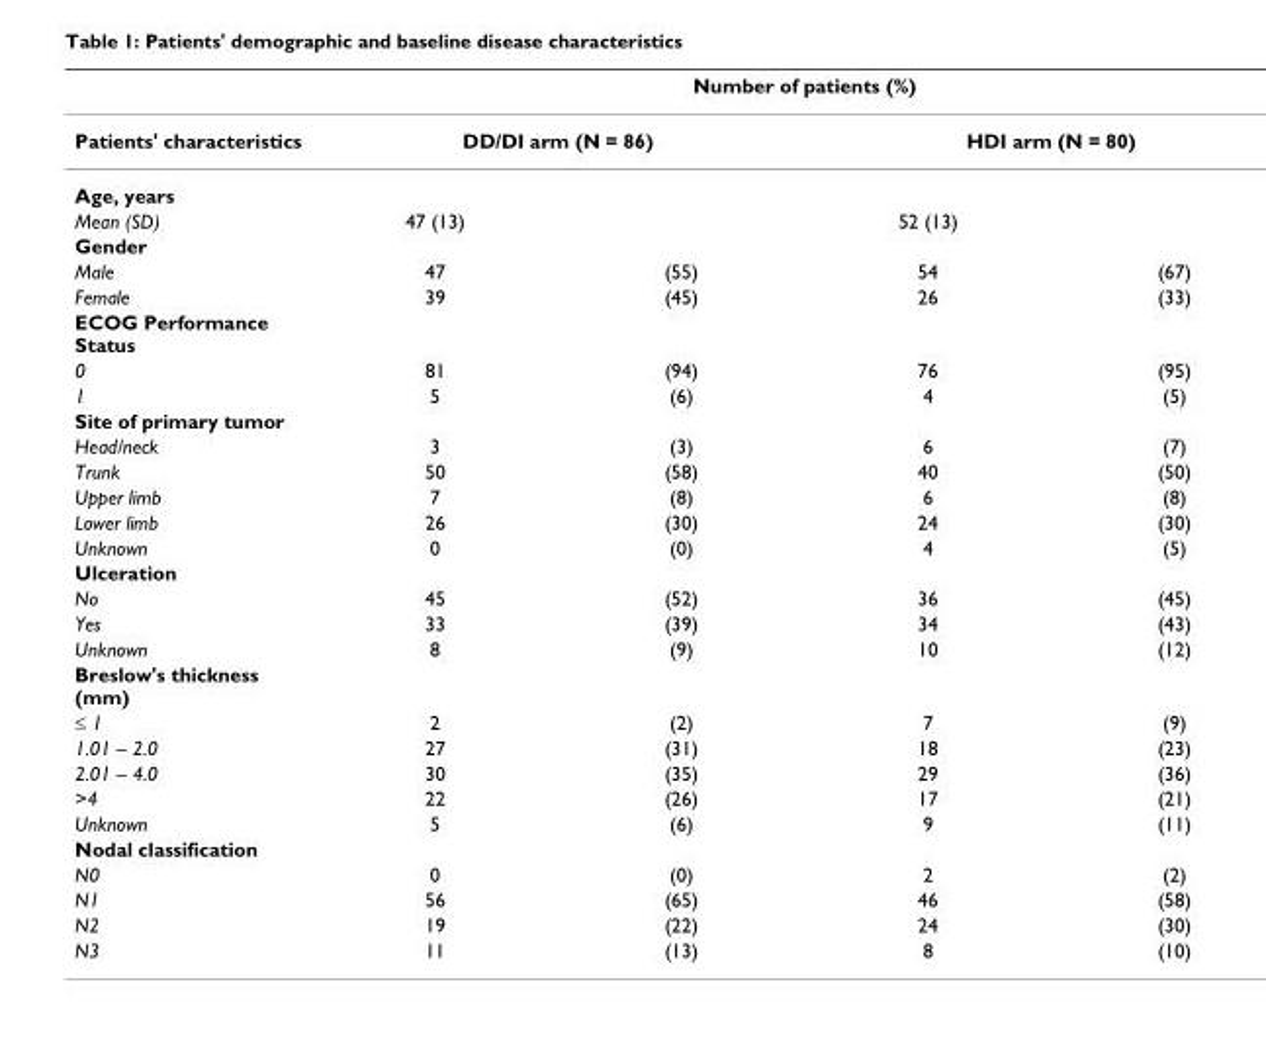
<table><thead><tr><td rowspan="3">Patients&#x27; characteristics Age, years</td><td colspan="4">Number of patients (%)</td></tr><tr><td colspan="2">DD/DI arm (N = 86)</td><td colspan="2">HDI arm (N = 80)</td></tr><tr><td></td><td></td><td></td><td></td></tr></thead><tbody><tr><td>Mean (SD)</td><td>47 (13)</td><td></td><td>52 (13)</td><td></td></tr><tr><td colspan="5">Gender</td></tr><tr><td>Male</td><td>47</td><td>(55)</td><td>54</td><td>(67)</td></tr><tr><td>Female</td><td>39</td><td>(45)</td><td>26</td><td>(33)</td></tr><tr><td colspan="5">ECOG Performance Status</td></tr><tr><td>0</td><td>81</td><td>(94)</td><td>76</td><td>(95)</td></tr><tr><td>1</td><td>5</td><td>(6)</td><td>4</td><td>(5)</td></tr><tr><td colspan="5">Site of primary tumor</td></tr><tr><td>Head/neck</td><td>3</td><td>(3)</td><td>6</td><td>(7)</td></tr><tr><td>Trunk</td><td>50</td><td>(58)</td><td>40</td><td>(50)</td></tr><tr><td>Upper limb</td><td>7</td><td>(8)</td><td>6</td><td>(8)</td></tr><tr><td>Lower limb</td><td>26</td><td>(30)</td><td>24</td><td>(30)</td></tr><tr><td>Unknown</td><td>0</td><td>(0)</td><td>4</td><td>(5)</td></tr><tr><td colspan="5">Ulceration</td></tr><tr><td>No</td><td>45</td><td>(52)</td><td>36</td><td>(45)</td></tr><tr><td>Yes</td><td>33</td><td>(39)</td><td>34</td><td>(43)</td></tr><tr><td>Unknown</td><td>8</td><td>(9)</td><td>10</td><td>(12)</td></tr><tr><td colspan="5">Breslow&#x27;s thickness (mm)</td></tr><tr><td>≤ 1</td><td>2</td><td>(2)</td><td>7</td><td>(9)</td></tr><tr><td>1.01 – 2.0</td><td>27</td><td>(31)</td><td>18</td><td>(23)</td></tr><tr><td>2.01 – 4.0</td><td>30</td><td>(35)</td><td>29</td><td>(36)</td></tr><tr><td>&gt;4</td><td>22</td><td>(26)</td><td>17</td><td>(21)</td></tr><tr><td>Unknown</td><td>5</td><td>(6)</td><td>9</td><td>(11)</td></tr><tr><td colspan="5">Nodal classification</td></tr><tr><td>N0</td><td>0</td><td>(0)</td><td>2</td><td>(2)</td></tr><tr><td>N1</td><td>56</td><td>(65)</td><td>46</td><td>(58)</td></tr><tr><td>N2</td><td>19</td><td>(22)</td><td>24</td><td>(30)</td></tr><tr><td>N3</td><td>11</td><td>(13)</td><td>8</td><td>(10)</td></tr></tbody></table>